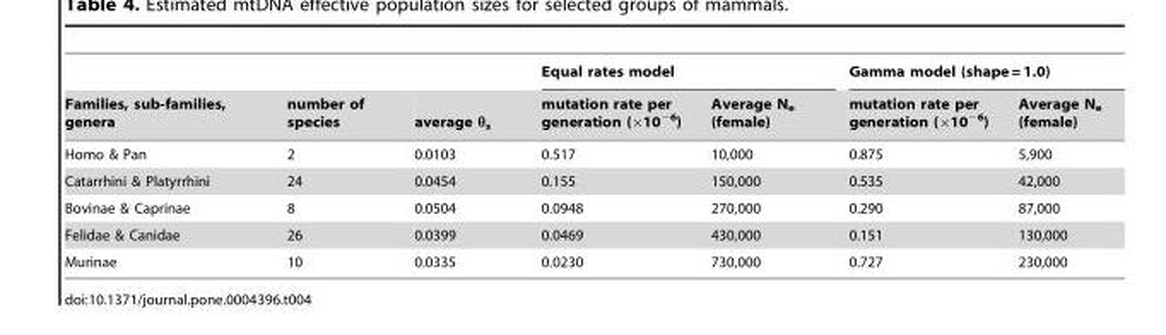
<table><thead><tr><td rowspan="2">Families, sub-families, genera</td><td rowspan="2">number of species</td><td rowspan="2">average θ<sub>s</sub></td><td colspan="2">Equal rates model</td><td colspan="2">Gamma model (shape = 1.0)</td></tr><tr><td>mutation rate per generation (×10<sup>−6</sup>)</td><td>Average N<sub>e</sub> (female)</td><td>mutation rate per generation (×10<sup>−6</sup>)</td><td>Average N<sub>e</sub> (female)</td></tr></thead><tbody><tr><td>Homo &amp; Pan</td><td>2</td><td>0.0103</td><td>0.517</td><td>10,000</td><td>0.875</td><td>5,900</td></tr><tr><td>Catarrhini &amp; Platyrrhini</td><td>24</td><td>0.0454</td><td>0.155</td><td>150,000</td><td>0.535</td><td>42,000</td></tr><tr><td>Bovinae &amp; Caprinae</td><td>8</td><td>0.0504</td><td>0.0948</td><td>270,000</td><td>0.290</td><td>87,000</td></tr><tr><td>Felidae &amp; Canidae</td><td>26</td><td>0.0399</td><td>0.0469</td><td>430,000</td><td>0.151</td><td>130,000</td></tr><tr><td>Murinae</td><td>10</td><td>0.0335</td><td>0.0230</td><td>730,000</td><td>0.727</td><td>230,000</td></tr></tbody></table>